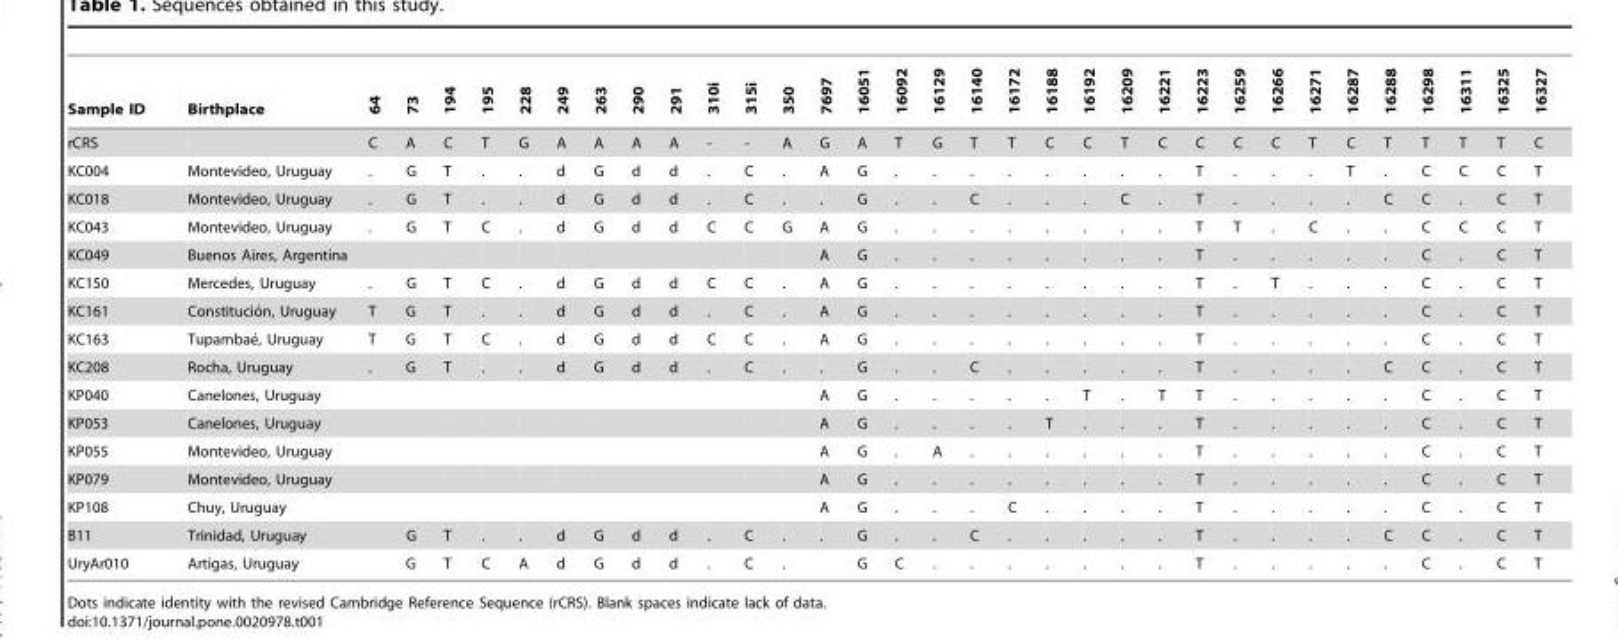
<table><thead><tr><td>Sample ID</td><td>Birthplace</td><td>64</td><td>73</td><td>194</td><td>195</td><td>228</td><td>249</td><td>263</td><td>290</td><td>291</td><td>310i</td><td>315i</td><td>350</td><td>7697</td><td>16051</td><td>16092</td><td>16129</td><td>16140</td><td>16172</td><td>16188</td><td>16192</td><td>16209</td><td>16221</td><td>16223</td><td>16259</td><td>16266</td><td>16271</td><td>16287</td><td>16288</td><td>16298</td><td>16311</td><td>16325</td><td>16327</td></tr></thead><tbody><tr><td>rCRS</td><td></td><td>C</td><td>A</td><td>C</td><td>T</td><td>G</td><td>A</td><td>A</td><td>A</td><td>A</td><td>-</td><td>-</td><td>A</td><td>G</td><td>A</td><td>T</td><td>G</td><td>T</td><td>T</td><td>C</td><td>C</td><td>T</td><td>C</td><td>C</td><td>C</td><td>C</td><td>T</td><td>C</td><td>T</td><td>T</td><td>T</td><td>T</td><td>C</td></tr><tr><td>KC004</td><td>Montevideo, Uruguay</td><td>.</td><td>G</td><td>T</td><td>.</td><td>.</td><td>d</td><td>G</td><td>d</td><td>d</td><td>.</td><td>C</td><td>.</td><td>A</td><td>G</td><td>.</td><td>.</td><td>.</td><td>.</td><td>.</td><td>.</td><td>.</td><td>.</td><td>T</td><td>.</td><td>.</td><td>.</td><td>T</td><td>.</td><td>C</td><td>C</td><td>C</td><td>T</td></tr><tr><td>KC018</td><td>Montevideo, Uruguay</td><td>.</td><td>G</td><td>T</td><td>.</td><td>.</td><td>d</td><td>G</td><td>d</td><td>d</td><td>.</td><td>C</td><td>.</td><td>.</td><td>G</td><td>.</td><td>.</td><td>C</td><td>.</td><td>.</td><td>.</td><td>C</td><td>.</td><td>T</td><td>.</td><td>.</td><td>.</td><td>.</td><td>C</td><td>C</td><td>.</td><td>C</td><td>T</td></tr><tr><td>KC043</td><td>Montevideo, Uruguay</td><td>.</td><td>G</td><td>T</td><td>C</td><td>.</td><td>d</td><td>G</td><td>d</td><td>d</td><td>C</td><td>C</td><td>G</td><td>A</td><td>G</td><td>.</td><td>.</td><td>.</td><td>.</td><td>.</td><td>.</td><td>.</td><td>.</td><td>T</td><td>T</td><td>.</td><td>C</td><td>.</td><td>.</td><td>C</td><td>C</td><td>C</td><td>T</td></tr><tr><td>KC049</td><td>Buenos Aires, Argentina</td><td></td><td></td><td></td><td></td><td></td><td></td><td></td><td></td><td></td><td></td><td></td><td></td><td>A</td><td>G</td><td>.</td><td>.</td><td>.</td><td>.</td><td>.</td><td>.</td><td>.</td><td>.</td><td>T</td><td>.</td><td>.</td><td>.</td><td>.</td><td>.</td><td>C</td><td>.</td><td>C</td><td>T</td></tr><tr><td>KC150</td><td>Mercedes, Uruguay</td><td>.</td><td>G</td><td>T</td><td>C</td><td>.</td><td>d</td><td>G</td><td>d</td><td>d</td><td>C</td><td>C</td><td>.</td><td>A</td><td>G</td><td>.</td><td>.</td><td>.</td><td>.</td><td>.</td><td>.</td><td>.</td><td>.</td><td>T</td><td>.</td><td>T</td><td>.</td><td>.</td><td>.</td><td>C</td><td>.</td><td>C</td><td>T</td></tr><tr><td>KC161</td><td>Constitucio´n, Uruguay</td><td>T</td><td>G</td><td>T</td><td>.</td><td>.</td><td>d</td><td>G</td><td>d</td><td>d</td><td>.</td><td>C</td><td>.</td><td>A</td><td>G</td><td>.</td><td>.</td><td>.</td><td>.</td><td>.</td><td>.</td><td>.</td><td>.</td><td>T</td><td>.</td><td>.</td><td>.</td><td>.</td><td>.</td><td>C</td><td>.</td><td>C</td><td>T</td></tr><tr><td>KC163</td><td>Tupambae´, Uruguay</td><td>T</td><td>G</td><td>T</td><td>C</td><td>.</td><td>d</td><td>G</td><td>d</td><td>d</td><td>C</td><td>C</td><td>.</td><td>A</td><td>G</td><td>.</td><td>.</td><td>.</td><td>.</td><td>.</td><td>.</td><td>.</td><td>.</td><td>T</td><td>.</td><td>.</td><td>.</td><td>.</td><td>.</td><td>C</td><td>.</td><td>C</td><td>T</td></tr><tr><td>KC208</td><td>Rocha, Uruguay</td><td>.</td><td>G</td><td>T</td><td>.</td><td>.</td><td>d</td><td>G</td><td>d</td><td>d</td><td>.</td><td>C</td><td>.</td><td>.</td><td>G</td><td>.</td><td>.</td><td>C</td><td>.</td><td>.</td><td>.</td><td>.</td><td>.</td><td>T</td><td>.</td><td>.</td><td>.</td><td>.</td><td>C</td><td>C</td><td>.</td><td>C</td><td>T</td></tr><tr><td>KP040</td><td>Canelones, Uruguay</td><td></td><td></td><td></td><td></td><td></td><td></td><td></td><td></td><td></td><td></td><td></td><td></td><td>A</td><td>G</td><td>.</td><td>.</td><td>.</td><td>.</td><td>.</td><td>T</td><td>.</td><td>T</td><td>T</td><td>.</td><td>.</td><td>.</td><td>.</td><td>.</td><td>C</td><td>.</td><td>C</td><td>T</td></tr><tr><td>KP053</td><td>Canelones, Uruguay</td><td></td><td></td><td></td><td></td><td></td><td></td><td></td><td></td><td></td><td></td><td></td><td></td><td>A</td><td>G</td><td>.</td><td>.</td><td>.</td><td>.</td><td>T</td><td>.</td><td>.</td><td>.</td><td>T</td><td>.</td><td>.</td><td>.</td><td>.</td><td>.</td><td>C</td><td>.</td><td>C</td><td>T</td></tr><tr><td>KP055</td><td>Montevideo, Uruguay</td><td></td><td></td><td></td><td></td><td></td><td></td><td></td><td></td><td></td><td></td><td></td><td></td><td>A</td><td>G</td><td>.</td><td>A</td><td>.</td><td>.</td><td>.</td><td>.</td><td>.</td><td>.</td><td>T</td><td>.</td><td>.</td><td>.</td><td>.</td><td>.</td><td>C</td><td>.</td><td>C</td><td>T</td></tr><tr><td>KP079</td><td>Montevideo, Uruguay</td><td></td><td></td><td></td><td></td><td></td><td></td><td></td><td></td><td></td><td></td><td></td><td></td><td>A</td><td>G</td><td>.</td><td>.</td><td>.</td><td>.</td><td>.</td><td>.</td><td>.</td><td>.</td><td>T</td><td>.</td><td>.</td><td>.</td><td>.</td><td>.</td><td>C</td><td>.</td><td>C</td><td>T</td></tr><tr><td>KP108</td><td>Chuy, Uruguay</td><td></td><td></td><td></td><td></td><td></td><td></td><td></td><td></td><td></td><td></td><td></td><td></td><td>A</td><td>G</td><td>.</td><td>.</td><td>.</td><td>C</td><td>.</td><td>.</td><td>.</td><td>.</td><td>T</td><td>.</td><td>.</td><td>.</td><td>.</td><td>.</td><td>C</td><td>.</td><td>C</td><td>T</td></tr><tr><td>B11</td><td>Trinidad, Uruguay</td><td></td><td>G</td><td>T</td><td>.</td><td>.</td><td>d</td><td>G</td><td>d</td><td>d</td><td>.</td><td>C</td><td>.</td><td>.</td><td>G</td><td>.</td><td>.</td><td>C</td><td>.</td><td>.</td><td>.</td><td>.</td><td>.</td><td>T</td><td>.</td><td>.</td><td>.</td><td>.</td><td>C</td><td>C</td><td>.</td><td>C</td><td>T</td></tr><tr><td>UryAr010</td><td>Artigas, Uruguay</td><td></td><td>G</td><td>T</td><td>C</td><td>A</td><td>d</td><td>G</td><td>d</td><td>d</td><td>.</td><td>C</td><td>.</td><td></td><td>G</td><td>C</td><td>.</td><td>.</td><td>.</td><td>.</td><td>.</td><td>.</td><td>.</td><td>T</td><td>.</td><td>.</td><td>.</td><td>.</td><td>.</td><td>C</td><td>.</td><td>C</td><td>T</td></tr></tbody></table>